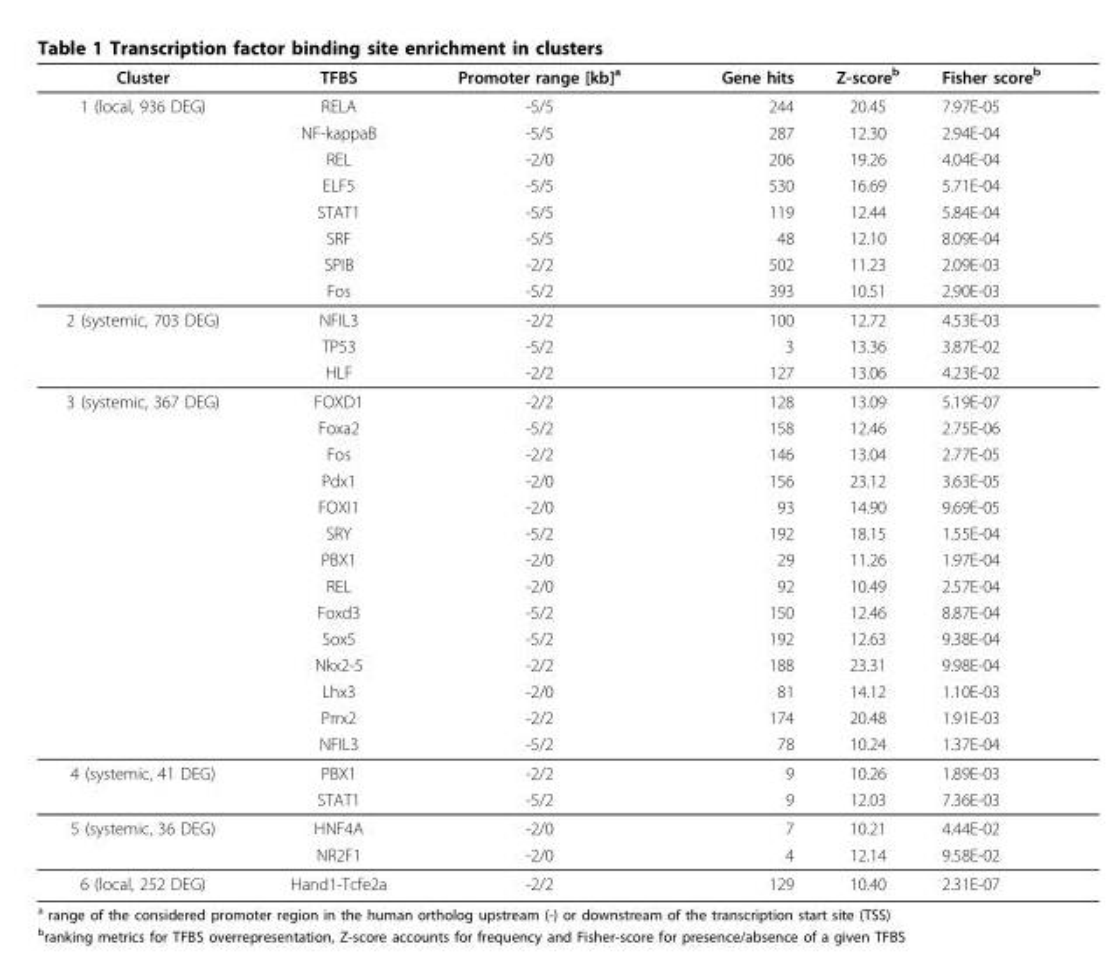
<table><thead><tr><td>Cluster</td><td>TFBS</td><td>Promoter range [kb]<sup>a</sup></td><td>Gene hits</td><td>Z-score<sup>b</sup></td><td>Fisher score<sup>b</sup></td></tr></thead><tbody><tr><td rowspan="8">1 (local, 936 DEG)</td><td>RELA</td><td>-5/5</td><td>244</td><td>20.45</td><td>7.97E-05</td></tr><tr><td>NF-kappaB</td><td>-5/5</td><td>287</td><td>12.30</td><td>2.94E-04</td></tr><tr><td>REL</td><td>-2/0</td><td>206</td><td>19.26</td><td>4.04E-04</td></tr><tr><td>ELF5</td><td>-5/5</td><td>530</td><td>16.69</td><td>5.71E-04</td></tr><tr><td>STAT1</td><td>-5/5</td><td>119</td><td>12.44</td><td>5.84E-04</td></tr><tr><td>SRF</td><td>-5/5</td><td>48</td><td>12.10</td><td>8.09E-04</td></tr><tr><td>SPIB</td><td>-2/2</td><td>502</td><td>11.23</td><td>2.09E-03</td></tr><tr><td>Fos</td><td>-5/2</td><td>393</td><td>10.51</td><td>2.90E-03</td></tr><tr><td rowspan="3">2 (systemic, 703 DEG)</td><td>NFIL3</td><td>-2/2</td><td>100</td><td>12.72</td><td>4.53E-03</td></tr><tr><td>TP53</td><td>-5/2</td><td>3</td><td>13.36</td><td>3.87E-02</td></tr><tr><td>HLF</td><td>-2/2</td><td>127</td><td>13.06</td><td>4.23E-02</td></tr><tr><td rowspan="14">3 (systemic, 367 DEG)</td><td>FOXD1</td><td>-2/2</td><td>128</td><td>13.09</td><td>5.19E-07</td></tr><tr><td>Foxa2</td><td>-5/2</td><td>158</td><td>12.46</td><td>2.75E-06</td></tr><tr><td>Fos</td><td>-2/2</td><td>146</td><td>13.04</td><td>2.77E-05</td></tr><tr><td>Pdx1</td><td>-2/0</td><td>156</td><td>23.12</td><td>3.63E-05</td></tr><tr><td>FOXI1</td><td>-2/0</td><td>93</td><td>14.90</td><td>9.69E-05</td></tr><tr><td>SRY</td><td>-5/2</td><td>192</td><td>18.15</td><td>1.55E-04</td></tr><tr><td>PBX1</td><td>-2/0</td><td>29</td><td>11.26</td><td>1.97E-04</td></tr><tr><td>REL</td><td>-2/0</td><td>92</td><td>10.49</td><td>2.57E-04</td></tr><tr><td>Foxd3</td><td>-5/2</td><td>150</td><td>12.46</td><td>8.87E-04</td></tr><tr><td>Sox5</td><td>-5/2</td><td>192</td><td>12.63</td><td>9.38E-04</td></tr><tr><td>Nkx2-5</td><td>-2/2</td><td>188</td><td>23.31</td><td>9.98E-04</td></tr><tr><td>Lhx3</td><td>-2/0</td><td>81</td><td>14.12</td><td>1.10E-03</td></tr><tr><td>Prrx2</td><td>-2/2</td><td>174</td><td>20.48</td><td>1.91E-03</td></tr><tr><td>NFIL3</td><td>-5/2</td><td>78</td><td>10.24</td><td>1.37E-04</td></tr><tr><td rowspan="2">4 (systemic, 41 DEG)</td><td>PBX1</td><td>-2/2</td><td>9</td><td>10.26</td><td>1.89E-03</td></tr><tr><td>STAT1</td><td>-5/2</td><td>9</td><td>12.03</td><td>7.36E-03</td></tr><tr><td rowspan="2">5 (systemic, 36 DEG)</td><td>HNF4A</td><td>-2/0</td><td>7</td><td>10.21</td><td>4.44E-02</td></tr><tr><td>NR2F1</td><td>-2/0</td><td>4</td><td>12.14</td><td>9.58E-02</td></tr><tr><td>6 (local, 252 DEG)</td><td>Hand1-Tcfe2a</td><td>-2/2</td><td>129</td><td>10.40</td><td>2.31E-07</td></tr></tbody></table>